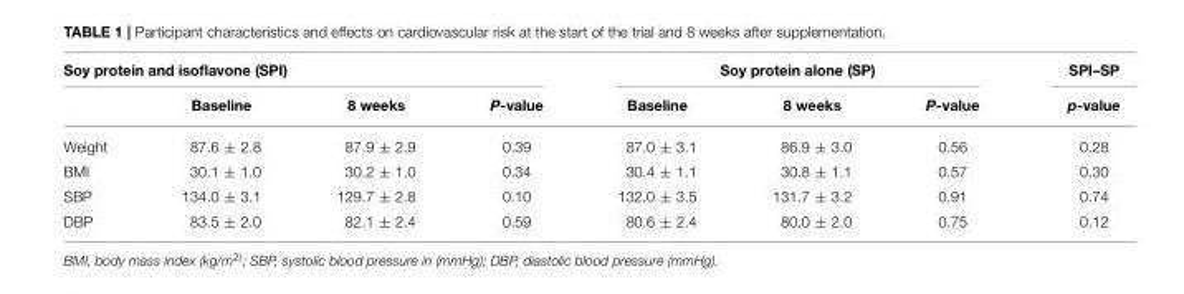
<table><thead><tr><td colspan="4">Soy protein and isoflavone (SPI)</td><td colspan="3">Soy protein alone (SP)</td><td rowspan="2">SPI–SP p-value</td></tr><tr><td></td><td>Baseline</td><td>8 weeks</td><td>P-value</td><td>Baseline</td><td>8 weeks</td><td>P-value</td></tr></thead><tbody><tr><td>Weight</td><td>87.6 ± 2.8</td><td>87.9 ± 2.9</td><td>0.39</td><td>87.0 ± 3.1</td><td>86.9 ± 3.0</td><td>0.56</td><td>0.28</td></tr><tr><td>BMI</td><td>30.1 ± 1.0</td><td>30.2 ± 1.0</td><td>0.34</td><td>30.4 ± 1.1</td><td>30.8 ± 1.1</td><td>0.57</td><td>0.30</td></tr><tr><td>SBP</td><td>134.0 ± 3.1</td><td>129.7 ± 2.8</td><td>0.10</td><td>132.0 ± 3.5</td><td>131.7 ± 3.2</td><td>0.91</td><td>0.74</td></tr><tr><td>DBP</td><td>83.5 ± 2.0</td><td>82.1 ± 2.4</td><td>0.59</td><td>80.6 ± 2.4</td><td>80.0 ± 2.0</td><td>0.75</td><td>0.12</td></tr></tbody></table>